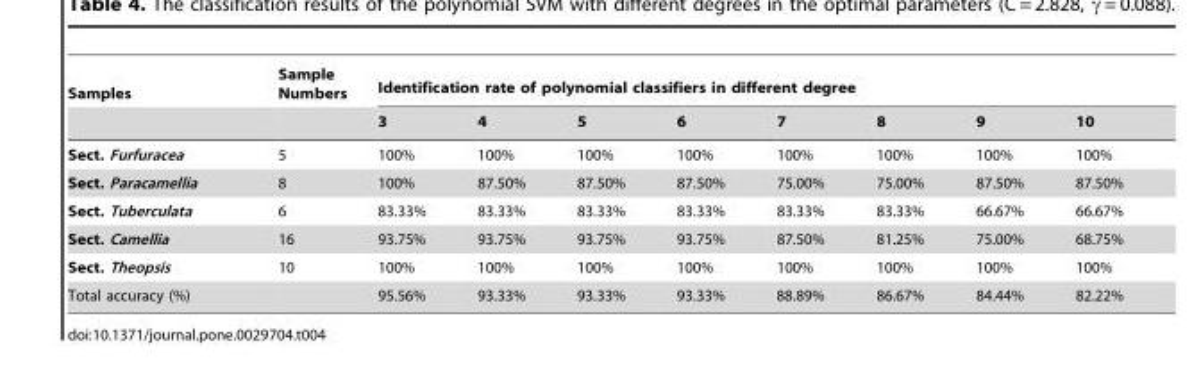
<table><thead><tr><td rowspan="2">Samples</td><td rowspan="2">Sample Numbers</td><td colspan="8">Identification rate of polynomial classifiers in different degree</td></tr><tr><td>3</td><td>4</td><td>5</td><td>6</td><td>7</td><td>8</td><td>9</td><td>10</td></tr></thead><tbody><tr><td>Sect. Furfuracea</td><td>5</td><td>100%</td><td>100%</td><td>100%</td><td>100%</td><td>100%</td><td>100%</td><td>100%</td><td>100%</td></tr><tr><td>Sect. Paracamellia</td><td>8</td><td>100%</td><td>87.50%</td><td>87.50%</td><td>87.50%</td><td>75.00%</td><td>75.00%</td><td>87.50%</td><td>87.50%</td></tr><tr><td>Sect. Tuberculata</td><td>6</td><td>83.33%</td><td>83.33%</td><td>83.33%</td><td>83.33%</td><td>83.33%</td><td>83.33%</td><td>66.67%</td><td>66.67%</td></tr><tr><td>Sect. Camellia</td><td>16</td><td>93.75%</td><td>93.75%</td><td>93.75%</td><td>93.75%</td><td>87.50%</td><td>81.25%</td><td>75.00%</td><td>68.75%</td></tr><tr><td>Sect. Theopsis</td><td>10</td><td>100%</td><td>100%</td><td>100%</td><td>100%</td><td>100%</td><td>100%</td><td>100%</td><td>100%</td></tr><tr><td>Total accuracy (%)</td><td></td><td>95.56%</td><td>93.33%</td><td>93.33%</td><td>93.33%</td><td>88.89%</td><td>86.67%</td><td>84.44%</td><td>82.22%</td></tr></tbody></table>